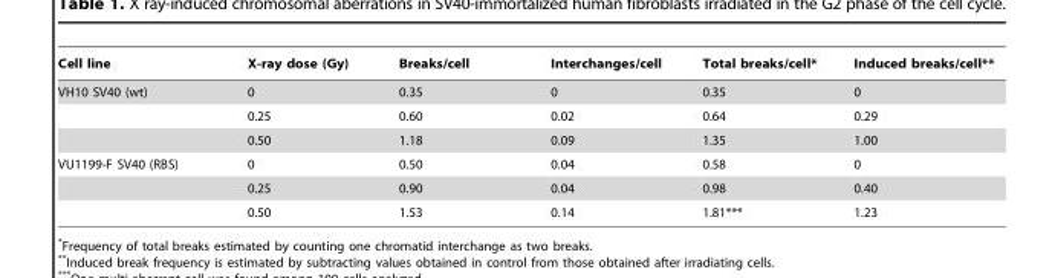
<table><thead><tr><td>Cell line</td><td>X-ray dose (Gy)</td><td>Breaks/cell</td><td>Interchanges/cell</td><td>Total breaks/cell*</td><td>Induced breaks/cell**</td></tr></thead><tbody><tr><td rowspan="3">VH10 SV40 (wt)</td><td>0</td><td>0.35</td><td>0</td><td>0.35</td><td>0</td></tr><tr><td>0.25</td><td>0.60</td><td>0.02</td><td>0.64</td><td>0.29</td></tr><tr><td>0.50</td><td>1.18</td><td>0.09</td><td>1.35</td><td>1.00</td></tr><tr><td rowspan="3">VU1199-F SV40 (RBS)</td><td>0</td><td>0.50</td><td>0.04</td><td>0.58</td><td>0</td></tr><tr><td>0.25</td><td>0.90</td><td>0.04</td><td>0.98</td><td>0.40</td></tr><tr><td>0.50</td><td>1.53</td><td>0.14</td><td>1.81***</td><td>1.23</td></tr></tbody></table>